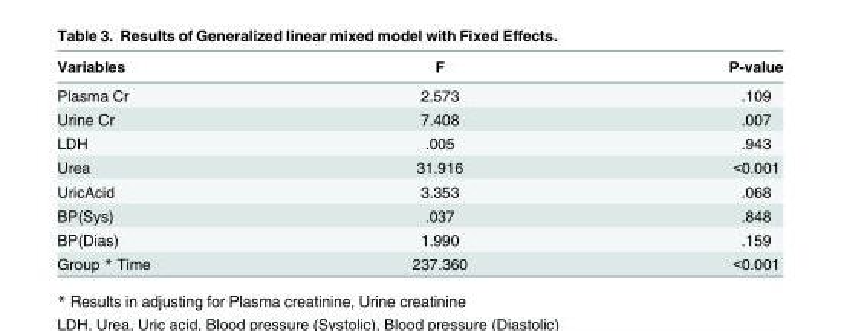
<table><thead><tr><td>Variables</td><td>F</td><td>P-value</td></tr></thead><tbody><tr><td>Plasma Cr</td><td>2.573</td><td>.109</td></tr><tr><td>Urine Cr</td><td>7.408</td><td>.007</td></tr><tr><td>LDH</td><td>.005</td><td>.943</td></tr><tr><td>Urea</td><td>31.916</td><td>&lt;0.001</td></tr><tr><td>UricAcid</td><td>3.353</td><td>.068</td></tr><tr><td>BP(Sys)</td><td>.037</td><td>.848</td></tr><tr><td>BP(Dias)</td><td>1.990</td><td>.159</td></tr><tr><td>Group * Time</td><td>237.360</td><td>&lt;0.001</td></tr></tbody></table>